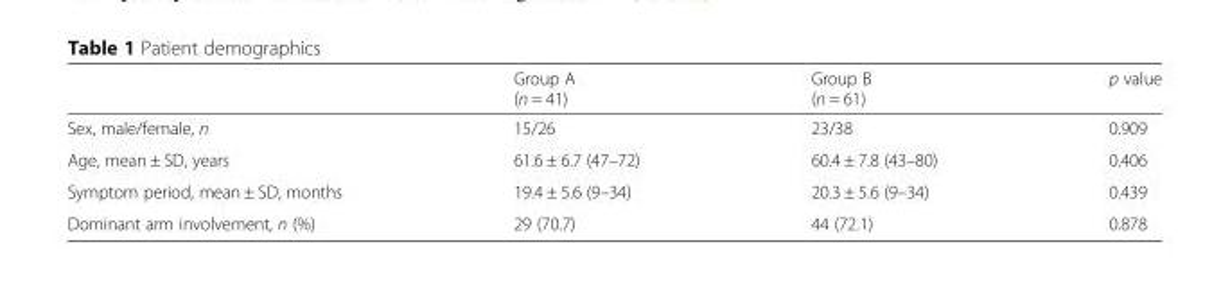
<table><thead><tr><td></td><td>Group A (n = 41)</td><td>Group B (n = 61)</td><td>p value</td></tr></thead><tbody><tr><td>Sex, male/female, n</td><td>15/26</td><td>23/38</td><td>0.909</td></tr><tr><td>Age, mean ± SD, years</td><td>61.6 ± 6.7 (47–72)</td><td>60.4 ± 7.8 (43–80)</td><td>0.406</td></tr><tr><td>Symptom period, mean ± SD, months</td><td>19.4 ± 5.6 (9–34)</td><td>20.3 ± 5.6 (9–34)</td><td>0.439</td></tr><tr><td>Dominant arm involvement, n (%)</td><td>29 (70.7)</td><td>44 (72.1)</td><td>0.878</td></tr></tbody></table>